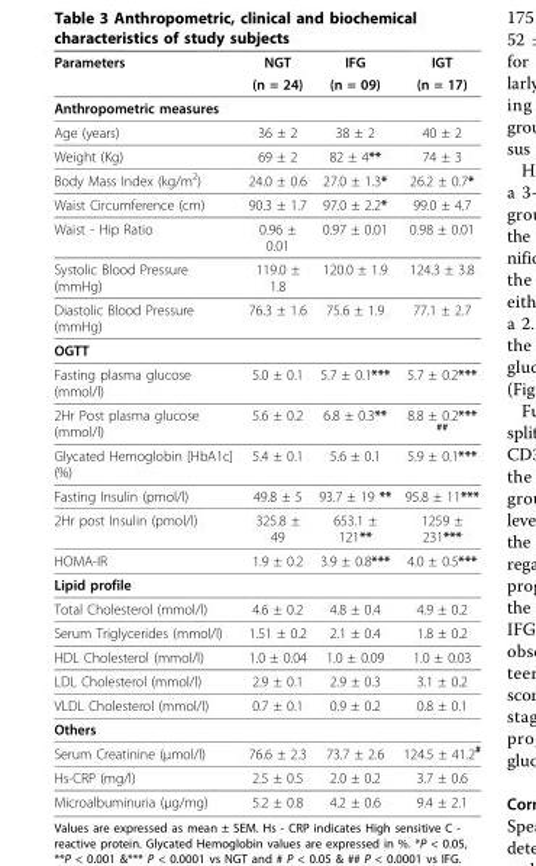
<table><thead><tr><td rowspan="2">Parameters</td><td rowspan="2">NGT (n = 24)</td><td rowspan="2">IFG (n = 09)</td><td rowspan="2">IGT (n = 17)</td></tr><tr></tr></thead><tbody><tr><td colspan="4">Anthropometric measures</td></tr><tr><td>Age (years)</td><td>36 ± 2</td><td>38 ± 2</td><td>40 ± 2</td></tr><tr><td>Weight (Kg)</td><td>69 ± 2</td><td>82 ± 4**</td><td>74 ± 3</td></tr><tr><td>Body Mass Index (kg/m<sup>2</sup>)</td><td>24.0 ± 0.6</td><td>27.0 ± 1.3*</td><td>26.2 ± 0.7*</td></tr><tr><td>Waist Circumference (cm)</td><td>90.3 ± 1.7</td><td>97.0 ± 2.2*</td><td>99.0 ± 4.7</td></tr><tr><td>Waist - Hip Ratio</td><td>0.96 ± 0.01</td><td>0.97 ± 0.01</td><td>0.98 ± 0.01</td></tr><tr><td>Systolic Blood Pressure (mmHg)</td><td>119.0 ± 1.8</td><td>120.0 ± 1.9</td><td>124.3 ± 3.8</td></tr><tr><td>Diastolic Blood Pressure (mmHg)</td><td>76.3 ± 1.6</td><td>75.6 ± 1.9</td><td>77.1 ± 2.7</td></tr><tr><td colspan="4">OGTT</td></tr><tr><td>Fasting plasma glucose (mmol/l)</td><td>5.0 ± 0.1</td><td>5.7 ± 0.1***</td><td>5.7 ± 0.2***</td></tr><tr><td>2Hr Post plasma glucose (mmol/l)</td><td>5.6 ± 0.2</td><td>6.8 ± 0.3**</td><td>8.8 ± 0.2*** <sup>##</sup></td></tr><tr><td>Glycated Hemoglobin [HbA1c] (%)</td><td>5.4 ± 0.1</td><td>5.6 ± 0.1</td><td>5.9 ± 0.1***</td></tr><tr><td>Fasting Insulin (pmol/l)</td><td>49.8 ± 5</td><td>93.7 ± 19 **</td><td>95.8 ± 11***</td></tr><tr><td>2Hr post Insulin (pmol/l)</td><td>325.8 ± 49</td><td>653.1 ± 121**</td><td>1259 ± 231***</td></tr><tr><td>HOMA-IR</td><td>1.9 ± 0.2</td><td>3.9 ± 0.8***</td><td>4.0 ± 0.5***</td></tr><tr><td colspan="4">Lipid profile</td></tr><tr><td>Total Cholesterol (mmol/l)</td><td>4.6 ± 0.2</td><td>4.8 ± 0.4</td><td>4.9 ± 0.2</td></tr><tr><td>Serum Triglycerides (mmol/l)</td><td>1.51 ± 0.2</td><td>2.1 ± 0.4</td><td>1.8 ± 0.2</td></tr><tr><td>HDL Cholesterol (mmol/l)</td><td>1.0 ± 0.04</td><td>1.0 ± 0.09</td><td>1.0 ± 0.03</td></tr><tr><td>LDL Cholesterol (mmol/l)</td><td>2.9 ± 0.1</td><td>2.9 ± 0.3</td><td>3.1 ± 0.2</td></tr><tr><td>VLDL Cholesterol (mmol/l)</td><td>0.7 ± 0.1</td><td>0.9 ± 0.2</td><td>0.8 ± 0.1</td></tr><tr><td colspan="4">Others</td></tr><tr><td>Serum Creatinine (μmol/l)</td><td>76.6 ± 2.3</td><td>73.7 ± 2.6</td><td>124.5 ± 41.2<sup>#</sup></td></tr><tr><td>Hs-CRP (mg/l)</td><td>2.5 ± 0.5</td><td>2.0 ± 0.2</td><td>3.7 ± 0.6</td></tr><tr><td>Microalbuminuria (μg/mg)</td><td>5.2 ± 0.8</td><td>4.2 ± 0.6</td><td>9.4 ± 2.1</td></tr></tbody></table>